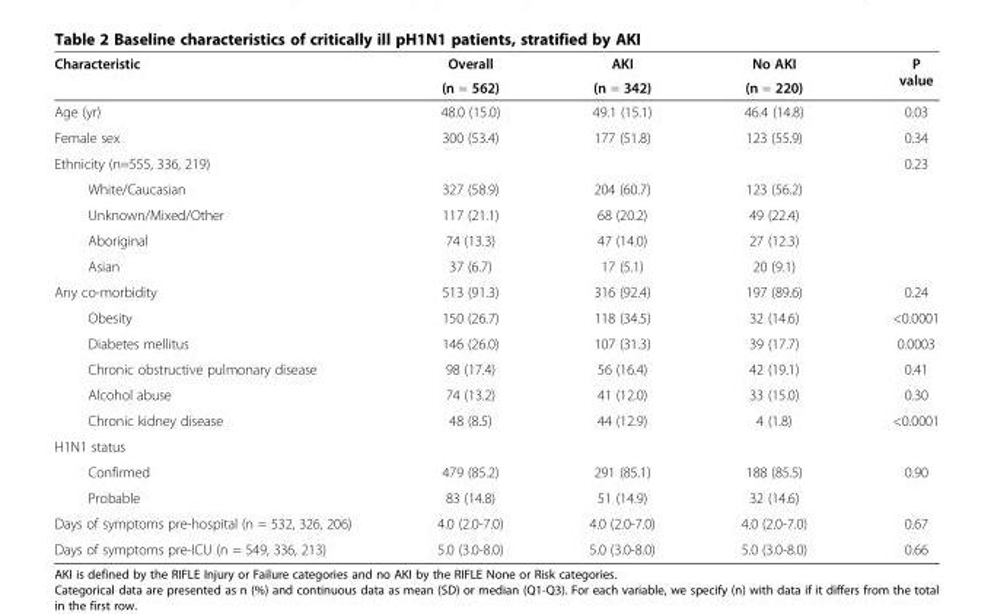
<table><thead><tr><td rowspan="2">Characteristic</td><td rowspan="2">Overall (n = 562)</td><td rowspan="2">AKI (n = 342)</td><td rowspan="2">No AKI (n = 220)</td><td rowspan="2">P value</td></tr><tr></tr></thead><tbody><tr><td>Age (yr)</td><td>48.0 (15.0)</td><td>49.1 (15.1)</td><td>46.4 (14.8)</td><td>0.03</td></tr><tr><td>Female sex</td><td>300 (53.4)</td><td>177 (51.8)</td><td>123 (55.9)</td><td>0.34</td></tr><tr><td>Ethnicity (n=555, 336, 219)</td><td></td><td></td><td></td><td>0.23</td></tr><tr><td>White/Caucasian</td><td>327 (58.9)</td><td>204 (60.7)</td><td>123 (56.2)</td><td></td></tr><tr><td>Unknown/Mixed/Other</td><td>117 (21.1)</td><td>68 (20.2)</td><td>49 (22.4)</td><td></td></tr><tr><td>Aboriginal</td><td>74 (13.3)</td><td>47 (14.0)</td><td>27 (12.3)</td><td></td></tr><tr><td>Asian</td><td>37 (6.7)</td><td>17 (5.1)</td><td>20 (9.1)</td><td></td></tr><tr><td>Any co-morbidity</td><td>513 (91.3)</td><td>316 (92.4)</td><td>197 (89.6)</td><td>0.24</td></tr><tr><td>Obesity</td><td>150 (26.7)</td><td>118 (34.5)</td><td>32 (14.6)</td><td>&lt;0.0001</td></tr><tr><td>Diabetes mellitus</td><td>146 (26.0)</td><td>107 (31.3)</td><td>39 (17.7)</td><td>0.0003</td></tr><tr><td>Chronic obstructive pulmonary disease</td><td>98 (17.4)</td><td>56 (16.4)</td><td>42 (19.1)</td><td>0.41</td></tr><tr><td>Alcohol abuse</td><td>74 (13.2)</td><td>41 (12.0)</td><td>33 (15.0)</td><td>0.30</td></tr><tr><td>Chronic kidney disease</td><td>48 (8.5)</td><td>44 (12.9)</td><td>4 (1.8)</td><td>&lt;0.0001</td></tr><tr><td colspan="5">H1N1 status</td></tr><tr><td>Confirmed</td><td>479 (85.2)</td><td>291 (85.1)</td><td>188 (85.5)</td><td rowspan="2">0.90</td></tr><tr><td>Probable</td><td>83 (14.8)</td><td>51 (14.9)</td><td>32 (14.6)</td></tr><tr><td>Days of symptoms pre-hospital (n = 532, 326, 206)</td><td>4.0 (2.0-7.0)</td><td>4.0 (2.0-7.0)</td><td>4.0 (2.0-7.0)</td><td>0.67</td></tr><tr><td>Days of symptoms pre-ICU (n = 549, 336, 213)</td><td>5.0 (3.0-8.0)</td><td>5.0 (3.0-8.0)</td><td>5.0 (3.0-8.0)</td><td>0.66</td></tr></tbody></table>